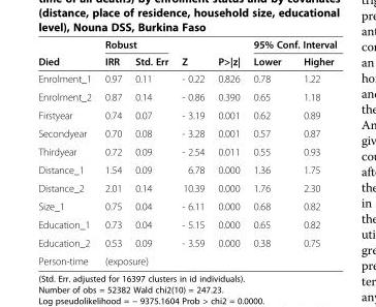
<table><thead><tr><td rowspan="2">Died</td><td colspan="2">Robust</td><td rowspan="2">Z</td><td rowspan="2">P&gt;|z|</td><td colspan="2">95% Conf. Interval</td></tr><tr><td>IRR</td><td>Std. Err</td><td>Lower</td><td>Higher</td></tr></thead><tbody><tr><td>Enrolment_1</td><td>0.97</td><td>0.11</td><td>- 0.22</td><td>0.826</td><td>0.78</td><td>1.22</td></tr><tr><td>Enrolment_2</td><td>0.87</td><td>0.14</td><td>- 0.86</td><td>0.390</td><td>0.65</td><td>1.18</td></tr><tr><td>Firstyear</td><td>0.74</td><td>0.07</td><td>- 3.19</td><td>0.001</td><td>0.62</td><td>0.89</td></tr><tr><td>Secondyear</td><td>0.70</td><td>0.08</td><td>- 3.28</td><td>0.001</td><td>0.57</td><td>0.87</td></tr><tr><td>Thirdyear</td><td>0.72</td><td>0.09</td><td>- 2.54</td><td>0.011</td><td>0.55</td><td>0.93</td></tr><tr><td>Distance_1</td><td>1.54</td><td>0.09</td><td>6.78</td><td>0.000</td><td>1.36</td><td>1.75</td></tr><tr><td>Distance_2</td><td>2.01</td><td>0.14</td><td>10.39</td><td>0.000</td><td>1.76</td><td>2.30</td></tr><tr><td>Size_1</td><td>0.75</td><td>0.04</td><td>- 6.11</td><td>0.000</td><td>0.68</td><td>0.82</td></tr><tr><td>Education_1</td><td>0.73</td><td>0.04</td><td>- 5.15</td><td>0.000</td><td>0.65</td><td>0.82</td></tr><tr><td>Education_2</td><td>0.53</td><td>0.09</td><td>- 3.59</td><td>0.000</td><td>0.38</td><td>0.75</td></tr><tr><td>Person-time</td><td colspan="6">(exposure)</td></tr></tbody></table>